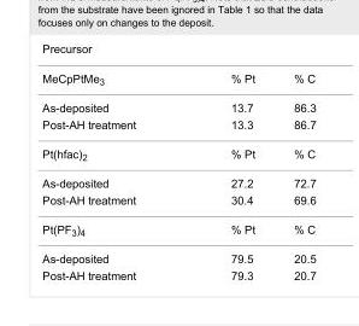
<table><tbody><tr><td colspan="3">Precursor</td></tr><tr><td>MeCpPtMe<sub>3</sub></td><td>% Pt</td><td>% C</td></tr><tr><td>As-deposited</td><td>13.7</td><td>86.3</td></tr><tr><td>Post-AH treatment</td><td>13.3</td><td>86.7</td></tr><tr><td>Pt(hfac)<sub>2</sub></td><td>% Pt</td><td>% C</td></tr><tr><td>As-deposited</td><td>27.2</td><td>72.7</td></tr><tr><td>Post-AH treatment</td><td>30.4</td><td>69.6</td></tr><tr><td>Pt(PF<sub>3</sub>)<sub>4</sub></td><td>% Pt</td><td>% C</td></tr><tr><td>As-deposited</td><td>79.5</td><td>20.5</td></tr><tr><td>Post-AH treatment</td><td>79.3</td><td>20.7</td></tr></tbody></table>